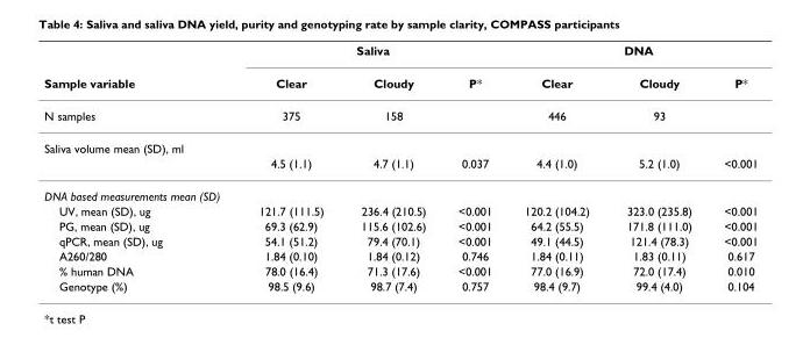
<table><thead><tr><td rowspan="2">Sample variable</td><td colspan="3">Saliva</td><td colspan="3">DNA</td></tr><tr><td>Clear</td><td>Cloudy</td><td>P*</td><td>Clear</td><td>Cloudy</td><td>P*</td></tr></thead><tbody><tr><td>N samples</td><td>375</td><td>158</td><td></td><td>446</td><td>93</td><td></td></tr><tr><td colspan="7">Saliva volume mean (SD), ml</td></tr><tr><td></td><td>4.5 (1.1)</td><td>4.7 (1.1)</td><td>0.037</td><td>4.4 (1.0)</td><td>5.2 (1.0)</td><td>&lt;0.001</td></tr><tr><td colspan="7">DNA based measurements mean (SD)</td></tr><tr><td>UV, mean (SD), ug</td><td>121.7 (111.5)</td><td>236.4 (210.5)</td><td>&lt;0.001</td><td>120.2 (104.2)</td><td>323.0 (235.8)</td><td>&lt;0.001</td></tr><tr><td>PG, mean (SD), ug</td><td>69.3 (62.9)</td><td>115.6 (102.6)</td><td>&lt;0.001</td><td>64.2 (55.5)</td><td>171.8 (111.0)</td><td>&lt;0.001</td></tr><tr><td>qPCR, mean (SD), ug</td><td>54.1 (51.2)</td><td>79.4 (70.1)</td><td>&lt;0.001</td><td>49.1 (44.5)</td><td>121.4 (78.3)</td><td>&lt;0.001</td></tr><tr><td>A260/280</td><td>1.84 (0.10)</td><td>1.84 (0.12)</td><td>0.746</td><td>1.84 (0.11)</td><td>1.83 (0.11)</td><td>0.617</td></tr><tr><td>% human DNA</td><td>78.0 (16.4)</td><td>71.3 (17.6)</td><td>&lt;0.001</td><td>77.0 (16.9)</td><td>72.0 (17.4)</td><td>0.010</td></tr><tr><td>Genotype (%)</td><td>98.5 (9.6)</td><td>98.7 (7.4)</td><td>0.757</td><td>98.4 (9.7)</td><td>99.4 (4.0)</td><td>0.104</td></tr></tbody></table>